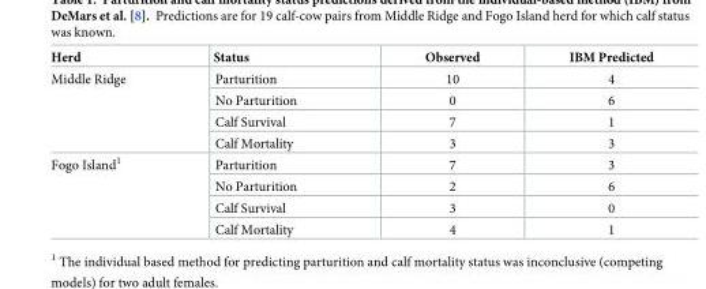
<table><thead><tr><td>Herd</td><td>Status</td><td>Observed</td><td>IBM Predicted</td></tr></thead><tbody><tr><td rowspan="4">Middle Ridge</td><td>Parturition</td><td>10</td><td>4</td></tr><tr><td>No Parturition</td><td>0</td><td>6</td></tr><tr><td>Calf Survival</td><td>7</td><td>1</td></tr><tr><td>Calf Mortality</td><td>3</td><td>3</td></tr><tr><td rowspan="4">Fogo Island<sup>1</sup></td><td>Parturition</td><td>7</td><td>3</td></tr><tr><td>No Parturition</td><td>2</td><td>6</td></tr><tr><td>Calf Survival</td><td>3</td><td>0</td></tr><tr><td>Calf Mortality</td><td>4</td><td>1</td></tr></tbody></table>